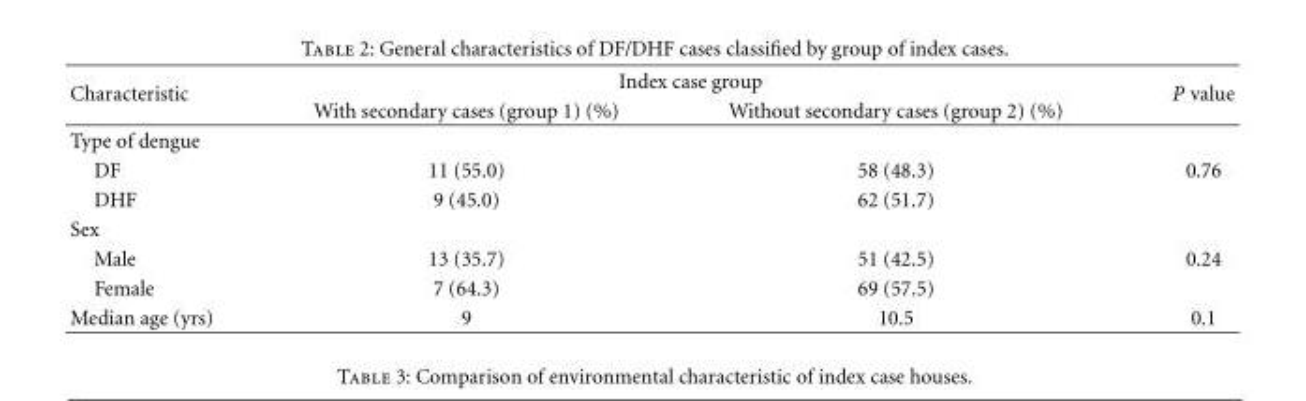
<table><thead><tr><td rowspan="2">Characteristic</td><td colspan="2">Index case group</td><td rowspan="2">P value</td></tr><tr><td>With secondary cases (group 1) (%)</td><td>Without secondary cases (group 2) (%)</td></tr></thead><tbody><tr><td colspan="4">Type of dengue</td></tr><tr><td>DF</td><td>11 (55.0)</td><td>58 (48.3)</td><td>0.76</td></tr><tr><td>DHF</td><td>9 (45.0)</td><td>62 (51.7)</td><td></td></tr><tr><td colspan="4">Sex</td></tr><tr><td>Male</td><td>13 (35.7)</td><td>51 (42.5)</td><td>0.24</td></tr><tr><td>Female</td><td>7 (64.3)</td><td>69 (57.5)</td><td></td></tr><tr><td>Median age (yrs)</td><td>9</td><td>10.5</td><td>0.1</td></tr></tbody></table>